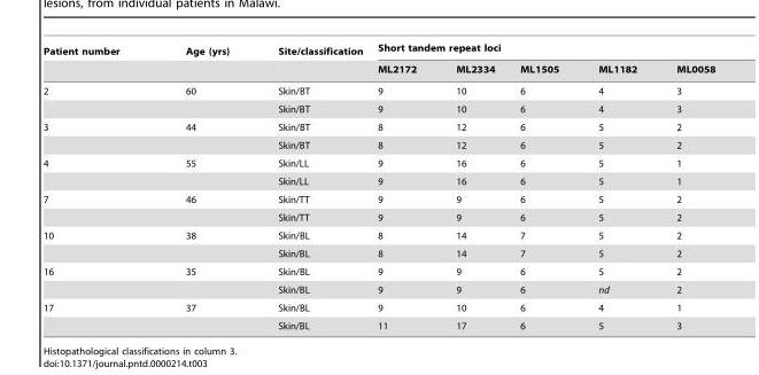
<table><thead><tr><td rowspan="2">Patient number</td><td rowspan="2">Age (yrs)</td><td rowspan="2">Site/classification</td><td colspan="5">Short tandem repeat loci</td></tr><tr><td>ML2172</td><td>ML2334</td><td>ML1505</td><td>ML1182</td><td>ML0058</td></tr></thead><tbody><tr><td rowspan="2">2</td><td>60</td><td>Skin/BT</td><td>9</td><td>10</td><td>6</td><td>4</td><td>3</td></tr><tr><td></td><td>Skin/BT</td><td>9</td><td>10</td><td>6</td><td>4</td><td>3</td></tr><tr><td rowspan="2">3</td><td>44</td><td>Skin/BT</td><td>8</td><td>12</td><td>6</td><td>5</td><td>2</td></tr><tr><td></td><td>Skin/BT</td><td>8</td><td>12</td><td>6</td><td>5</td><td>2</td></tr><tr><td rowspan="2">4</td><td>55</td><td>Skin/LL</td><td>9</td><td>16</td><td>6</td><td>5</td><td>1</td></tr><tr><td></td><td>Skin/LL</td><td>9</td><td>16</td><td>6</td><td>5</td><td>1</td></tr><tr><td rowspan="2">7</td><td>46</td><td>Skin/TT</td><td>9</td><td>9</td><td>6</td><td>5</td><td>2</td></tr><tr><td></td><td>Skin/TT</td><td>9</td><td>9</td><td>6</td><td>5</td><td>2</td></tr><tr><td rowspan="2">10</td><td>38</td><td>Skin/BL</td><td>8</td><td>14</td><td>7</td><td>5</td><td>2</td></tr><tr><td></td><td>Skin/BL</td><td>8</td><td>14</td><td>7</td><td>5</td><td>2</td></tr><tr><td rowspan="2">16</td><td>35</td><td>Skin/BL</td><td>9</td><td>9</td><td>6</td><td>5</td><td>2</td></tr><tr><td></td><td>Skin/BL</td><td>9</td><td>9</td><td>6</td><td>nd</td><td>2</td></tr><tr><td rowspan="2">17</td><td>37</td><td>Skin/BL</td><td>9</td><td>10</td><td>6</td><td>4</td><td>1</td></tr><tr><td></td><td>Skin/BL</td><td>11</td><td>17</td><td>6</td><td>5</td><td>3</td></tr></tbody></table>